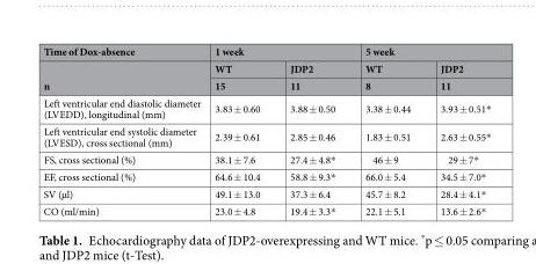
<table><thead><tr><td rowspan="3">Time of Dox-absence n</td><td colspan="2">1 week</td><td colspan="2">5 week</td></tr><tr><td rowspan="2">WT 15</td><td rowspan="2">JDP2 11</td><td rowspan="2">WT 8</td><td rowspan="2">JDP2 11</td></tr><tr></tr></thead><tbody><tr><td>Left ventricular end diastolic diameter (LVEDD), longitudinal (mm)</td><td>3.83 ± 0.60</td><td>3.88 ± 0.50</td><td>3.38 ± 0.44</td><td>3.93 ± 0.51*</td></tr><tr><td>Left ventricular end systolic diameter (LVESD), cross sectional (mm)</td><td>2.39 ± 0.61</td><td>2.85 ± 0.46</td><td>1.83 ± 0.51</td><td>2.63 ± 0.55*</td></tr><tr><td>FS, cross sectional (%)</td><td>38.1 ± 7.6</td><td>27.4 ± 4.8*</td><td>46 ± 9</td><td>29 ± 7*</td></tr><tr><td>EF, cross sectional (%)</td><td>64.6 ± 10.4</td><td>58.8 ± 9.3*</td><td>66.0 ± 5.4</td><td>34.5 ± 7.0*</td></tr><tr><td>SV (µl)</td><td>49.1 ± 13.0</td><td>37.3 ± 6.4</td><td>45.7 ± 8.2</td><td>28.4 ± 4.1*</td></tr><tr><td>CO (ml/min)</td><td>23.0 ± 4.8</td><td>19.4 ± 3.3*</td><td>22.1 ± 5.1</td><td>13.6 ± 2.6*</td></tr></tbody></table>